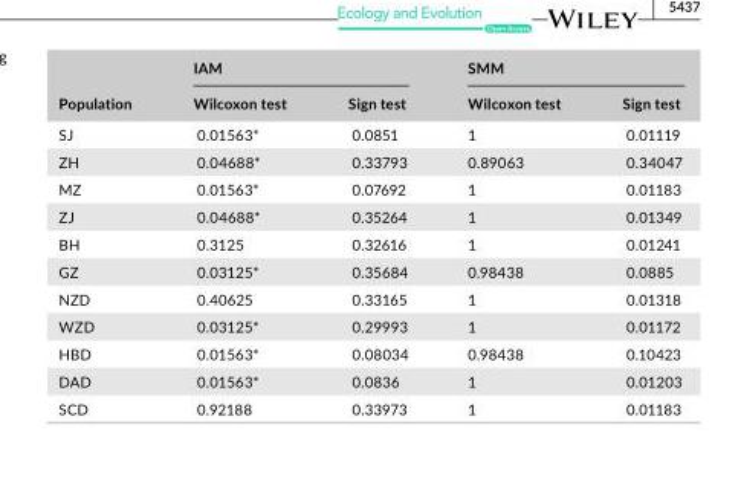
<table><thead><tr><td rowspan="2">Population</td><td colspan="2">IAM</td><td colspan="2">SMM</td></tr><tr><td>Wilcoxon test</td><td>Sign test</td><td>Wilcoxon test</td><td>Sign test</td></tr></thead><tbody><tr><td>SJ</td><td>0.01563*</td><td>0.0851</td><td>1</td><td>0.01119</td></tr><tr><td>ZH</td><td>0.04688*</td><td>0.33793</td><td>0.89063</td><td>0.34047</td></tr><tr><td>MZ</td><td>0.01563*</td><td>0.07692</td><td>1</td><td>0.01183</td></tr><tr><td>ZJ</td><td>0.04688*</td><td>0.35264</td><td>1</td><td>0.01349</td></tr><tr><td>BH</td><td>0.3125</td><td>0.32616</td><td>1</td><td>0.01241</td></tr><tr><td>GZ</td><td>0.03125*</td><td>0.35684</td><td>0.98438</td><td>0.0885</td></tr><tr><td>NZD</td><td>0.40625</td><td>0.33165</td><td>1</td><td>0.01318</td></tr><tr><td>WZD</td><td>0.03125*</td><td>0.29993</td><td>1</td><td>0.01172</td></tr><tr><td>HBD</td><td>0.01563*</td><td>0.08034</td><td>0.98438</td><td>0.10423</td></tr><tr><td>DAD</td><td>0.01563*</td><td>0.0836</td><td>1</td><td>0.01203</td></tr><tr><td>SCD</td><td>0.92188</td><td>0.33973</td><td>1</td><td>0.01183</td></tr></tbody></table>